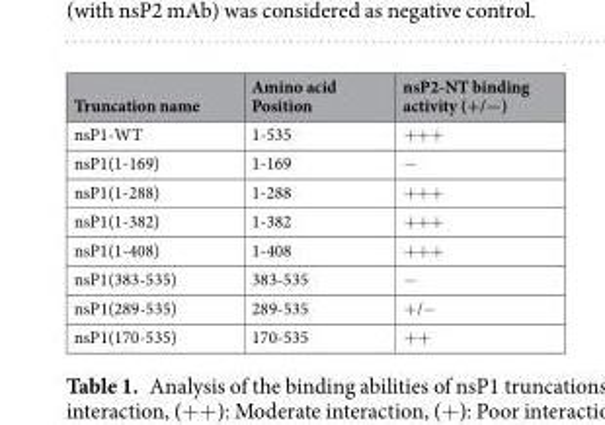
<table><thead><tr><td>Truncation name</td><td>Amino acid Position</td><td>nsP2-NT binding activity (+/−)</td></tr></thead><tbody><tr><td>nsP1-WT</td><td>1-535</td><td>+++</td></tr><tr><td>nsP1(1-169)</td><td>1-169</td><td>−</td></tr><tr><td>nsP1(1-288)</td><td>1-288</td><td>+++</td></tr><tr><td>nsP1(1-382)</td><td>1-382</td><td>+++</td></tr><tr><td>nsP1(1-408)</td><td>1-408</td><td>+++</td></tr><tr><td>nsP1(383-535)</td><td>383-535</td><td>−</td></tr><tr><td>nsP1(289-535)</td><td>289-535</td><td>+/−</td></tr><tr><td>nsP1(170-535)</td><td>170-535</td><td>++</td></tr></tbody></table>